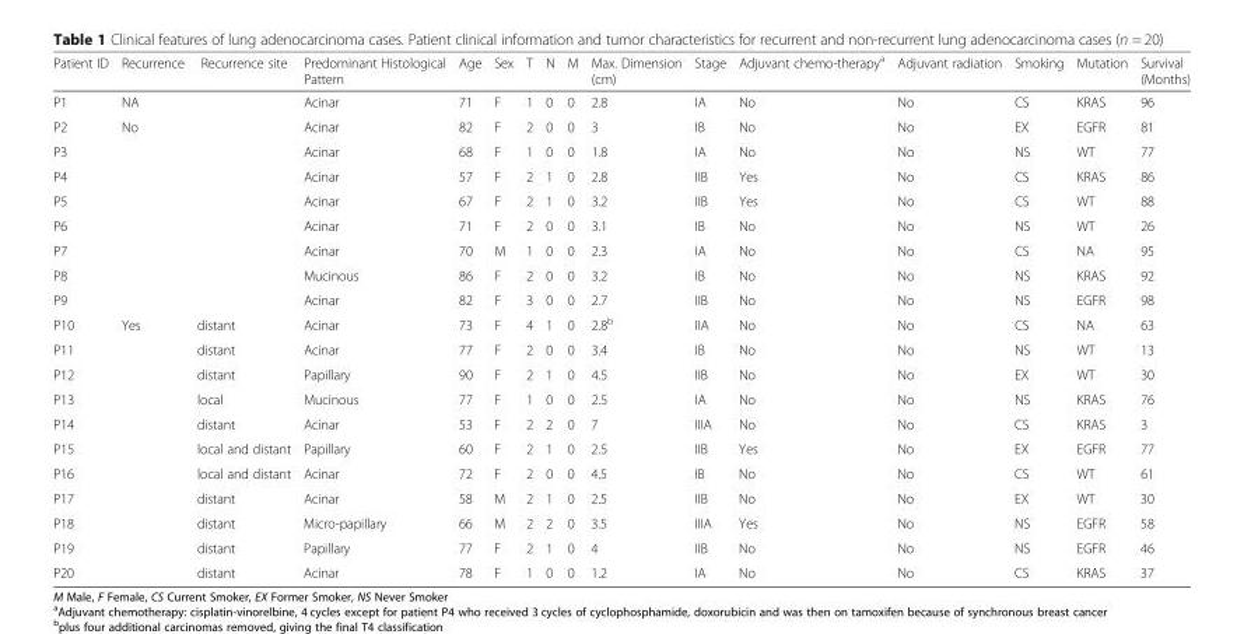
<table><thead><tr><td>Patient ID</td><td>Recurrence</td><td>Recurrence site</td><td>Predominant Histological Pattern</td><td>Age</td><td>Sex</td><td>T</td><td>N</td><td>M</td><td>Max. Dimension (cm)</td><td>Stage</td><td>Adjuvant chemo-therapy<sup>a</sup></td><td>Adjuvant radiation</td><td>Smoking</td><td>Mutation</td><td>Survival (Months)</td></tr></thead><tbody><tr><td>P1</td><td>NA</td><td></td><td>Acinar</td><td>71</td><td>F</td><td>1</td><td>0</td><td>0</td><td>2.8</td><td>IA</td><td>No</td><td>No</td><td>CS</td><td>KRAS</td><td>96</td></tr><tr><td>P2</td><td rowspan="8">No</td><td></td><td>Acinar</td><td>82</td><td>F</td><td>2</td><td>0</td><td>0</td><td>3</td><td>IB</td><td>No</td><td>No</td><td>EX</td><td>EGFR</td><td>81</td></tr><tr><td>P3</td><td></td><td>Acinar</td><td>68</td><td>F</td><td>1</td><td>0</td><td>0</td><td>1.8</td><td>IA</td><td>No</td><td>No</td><td>NS</td><td>WT</td><td>77</td></tr><tr><td>P4</td><td></td><td>Acinar</td><td>57</td><td>F</td><td>2</td><td>1</td><td>0</td><td>2.8</td><td>IIB</td><td>Yes</td><td>No</td><td>CS</td><td>KRAS</td><td>86</td></tr><tr><td>P5</td><td></td><td>Acinar</td><td>67</td><td>F</td><td>2</td><td>1</td><td>0</td><td>3.2</td><td>IIB</td><td>Yes</td><td>No</td><td>CS</td><td>WT</td><td>88</td></tr><tr><td>P6</td><td></td><td>Acinar</td><td>71</td><td>F</td><td>2</td><td>0</td><td>0</td><td>3.1</td><td>IB</td><td>No</td><td>No</td><td>NS</td><td>WT</td><td>26</td></tr><tr><td>P7</td><td></td><td>Acinar</td><td>70</td><td>M</td><td>1</td><td>0</td><td>0</td><td>2.3</td><td>IA</td><td>No</td><td>No</td><td>CS</td><td>NA</td><td>95</td></tr><tr><td>P8</td><td></td><td>Mucinous</td><td>86</td><td>F</td><td>2</td><td>0</td><td>0</td><td>3.2</td><td>IB</td><td>No</td><td>No</td><td>NS</td><td>KRAS</td><td>92</td></tr><tr><td>P9</td><td></td><td>Acinar</td><td>82</td><td>F</td><td>3</td><td>0</td><td>0</td><td>2.7</td><td>IIB</td><td>No</td><td>No</td><td>NS</td><td>EGFR</td><td>98</td></tr><tr><td>P10</td><td rowspan="11">Yes</td><td>distant</td><td>Acinar</td><td>73</td><td>F</td><td>4</td><td>1</td><td>0</td><td>2.8<sup>b</sup></td><td>IIA</td><td>No</td><td>No</td><td>CS</td><td>NA</td><td>63</td></tr><tr><td>P11</td><td>distant</td><td>Acinar</td><td>77</td><td>F</td><td>2</td><td>0</td><td>0</td><td>3.4</td><td>IB</td><td>No</td><td>No</td><td>NS</td><td>WT</td><td>13</td></tr><tr><td>P12</td><td>distant</td><td>Papillary</td><td>90</td><td>F</td><td>2</td><td>1</td><td>0</td><td>4.5</td><td>IIB</td><td>No</td><td>No</td><td>EX</td><td>WT</td><td>30</td></tr><tr><td>P13</td><td>local</td><td>Mucinous</td><td>77</td><td>F</td><td>1</td><td>0</td><td>0</td><td>2.5</td><td>IA</td><td>No</td><td>No</td><td>NS</td><td>KRAS</td><td>76</td></tr><tr><td>P14</td><td>distant</td><td>Acinar</td><td>53</td><td>F</td><td>2</td><td>2</td><td>0</td><td>7</td><td>IIIA</td><td>No</td><td>No</td><td>CS</td><td>KRAS</td><td>3</td></tr><tr><td>P15</td><td>local and distant</td><td>Papillary</td><td>60</td><td>F</td><td>2</td><td>1</td><td>0</td><td>2.5</td><td>IIB</td><td>Yes</td><td>No</td><td>EX</td><td>EGFR</td><td>77</td></tr><tr><td>P16</td><td>local and distant</td><td>Acinar</td><td>72</td><td>F</td><td>2</td><td>0</td><td>0</td><td>4.5</td><td>IB</td><td>No</td><td>No</td><td>CS</td><td>WT</td><td>61</td></tr><tr><td>P17</td><td>distant</td><td>Acinar</td><td>58</td><td>M</td><td>2</td><td>1</td><td>0</td><td>2.5</td><td>IIB</td><td>No</td><td>No</td><td>EX</td><td>WT</td><td>30</td></tr><tr><td>P18</td><td>distant</td><td>Micro-papillary</td><td>66</td><td>M</td><td>2</td><td>2</td><td>0</td><td>3.5</td><td>IIIA</td><td>Yes</td><td>No</td><td>NS</td><td>EGFR</td><td>58</td></tr><tr><td>P19</td><td>distant</td><td>Papillary</td><td>77</td><td>F</td><td>2</td><td>1</td><td>0</td><td>4</td><td>IIB</td><td>No</td><td>No</td><td>NS</td><td>EGFR</td><td>46</td></tr><tr><td>P20</td><td>distant</td><td>Acinar</td><td>78</td><td>F</td><td>1</td><td>0</td><td>0</td><td>1.2</td><td>IA</td><td>No</td><td>No</td><td>CS</td><td>KRAS</td><td>37</td></tr></tbody></table>